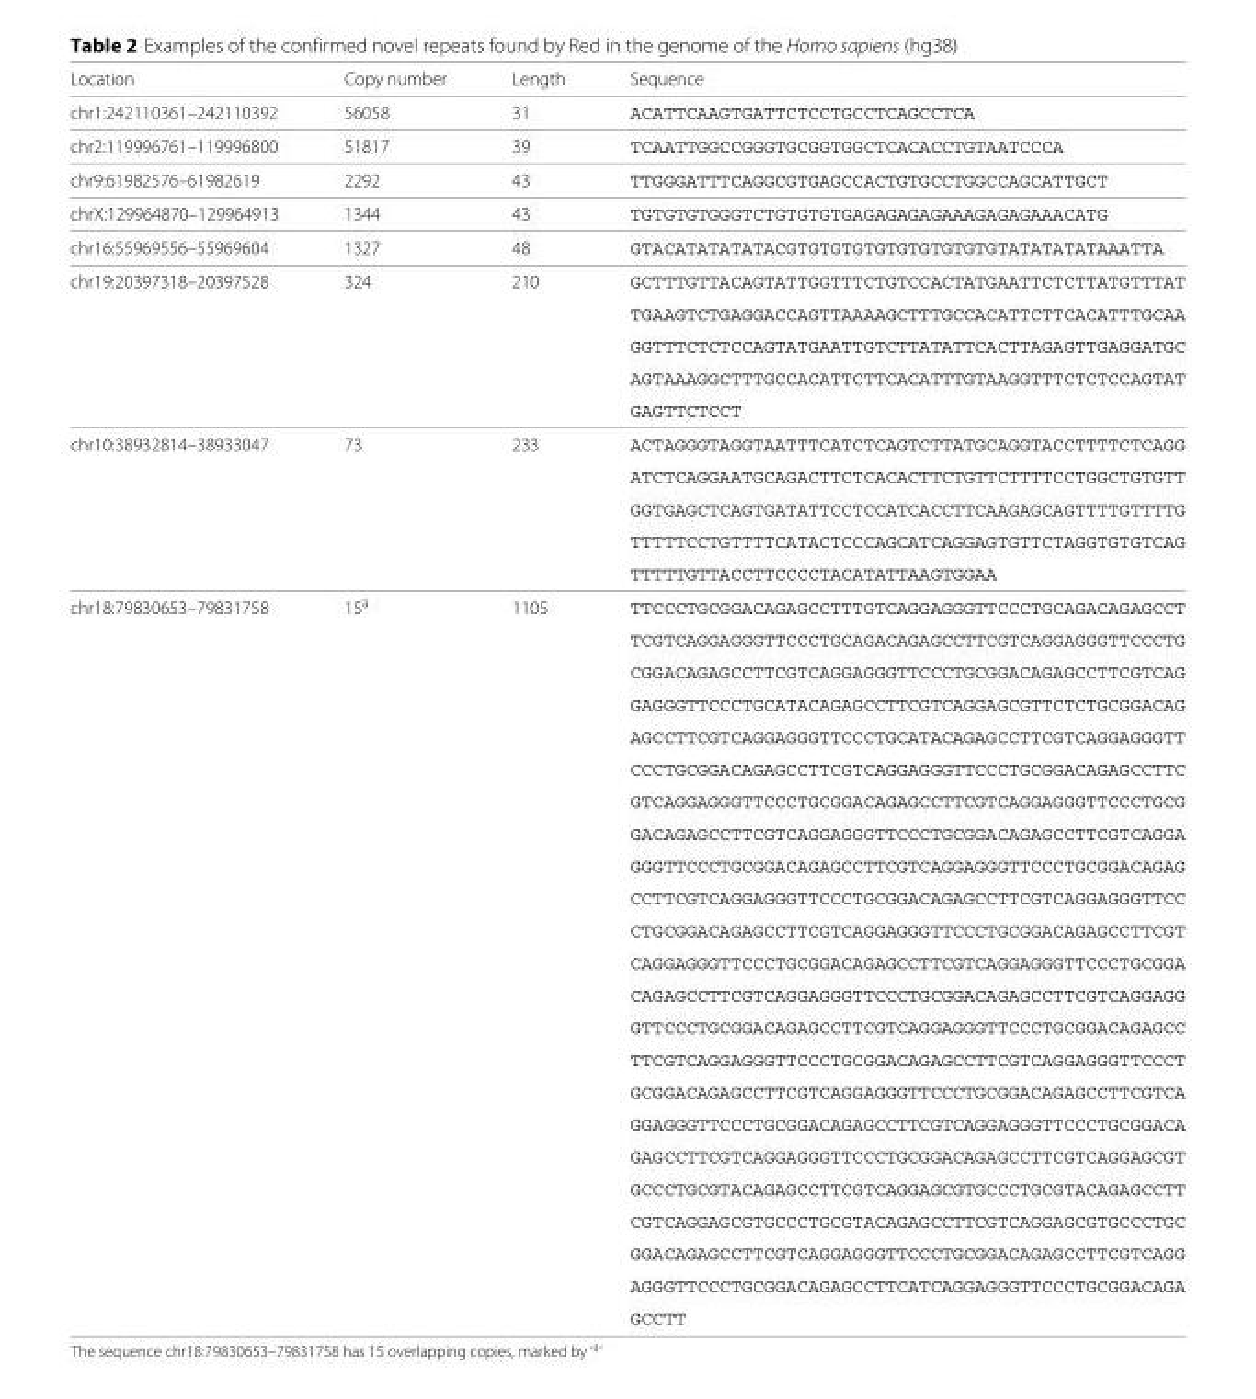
<table><thead><tr><td>Location</td><td>Copy number</td><td>Length</td><td>Sequence</td></tr></thead><tbody><tr><td>chr1:242110361–242110392</td><td>56058</td><td>31</td><td>ACATTCAAGTGATTCTCCTGCCTCAGCCTCA</td></tr><tr><td>chr2:119996761–119996800</td><td>51817</td><td>39</td><td>TCAATTGGCCGGGTGCGGTGGCTCACACCTGTAATCCCA</td></tr><tr><td>chr9:61982576–61982619</td><td>2292</td><td>43</td><td>TTGGGATTTCAGGCGTGAGCCACTGTGCCTGGCCAGCATTGCT</td></tr><tr><td>chrX:129964870–129964913</td><td>1344</td><td>43</td><td>TGTGTGTGGGTCTGTGTGTGAGAGAGAGAAAGAGAGAAACATG</td></tr><tr><td>chr16:55969556–55969604</td><td>1327</td><td>48</td><td>GTACATATATATACGTGTGTGTGTGTGTGTGTGTATATATATAAATTA</td></tr><tr><td rowspan="5">chr19:20397318–20397528</td><td>324</td><td>210</td><td>GCTTTGTTACAGTATTGGTTTCTGTCCACTATGAATTCTCTTATGTTTAT</td></tr><tr><td></td><td></td><td>TGAAGTCTGAGGACCAGTTAAAAGCTTTGCCACATTCTTCACATTTGCAA</td></tr><tr><td></td><td></td><td>GGTTTCTCTCCAGTATGAATTGTCTTATATTCACTTAGAGTTGAGGATGC</td></tr><tr><td></td><td></td><td>AGTAAAGGCTTTGCCACATTCTTCACATTTGTAAGGTTTCTCTCCAGTAT</td></tr><tr><td></td><td></td><td>GAGTTCTCCT</td></tr><tr><td rowspan="5">chr10:38932814–38933047</td><td>73</td><td>233</td><td>ACTAGGGTAGGTAATTTCATCTCAGTCTTATGCAGGTACCTTTTCTCAGG</td></tr><tr><td></td><td></td><td>ATCTCAGGAATGCAGACTTCTCACACTTCTGTTCTTTTCCTGGCTGTGTT</td></tr><tr><td></td><td></td><td>GGTGAGCTCAGTGATATTCCTCCATCACCTTCAAGAGCAGTTTTGTTTTG</td></tr><tr><td></td><td></td><td>TTTTTCCTGTTTTCATACTCCCAGCATCAGGAGTGTTCTAGGTGTGTCAG</td></tr><tr><td></td><td></td><td>TTTTTGTTACCTTCCCCTACATATTAAGTGGAA</td></tr><tr><td rowspan="23">chr18:79830653–79831758</td><td>15<sup>a</sup></td><td>1105</td><td>TTCCCTGCGGACAGAGCCTTTGTCAGGAGGGTTCCCTGCAGACAGAGCCT</td></tr><tr><td></td><td></td><td>TCGTCAGGAGGGTTCCCTGCAGACAGAGCCTTCGTCAGGAGGGTTCCCTG</td></tr><tr><td></td><td></td><td>CGGACAGAGCCTTCGTCAGGAGGGTTCCCTGCGGACAGAGCCTTCGTCAG</td></tr><tr><td></td><td></td><td>GAGGGTTCCCTGCATACAGAGCCTTCGTCAGGAGCGTTCTCTGCGGACAG</td></tr><tr><td></td><td></td><td>AGCCTTCGTCAGGAGGGTTCCCTGCATACAGAGCCTTCGTCAGGAGGGTT</td></tr><tr><td></td><td></td><td>CCCTGCGGACAGAGCCTTCGTCAGGAGGGTTCCCTGCGGACAGAGCCTTC</td></tr><tr><td></td><td></td><td>GTCAGGAGGGTTCCCTGCGGACAGAGCCTTCGTCAGGAGGGTTCCCTGCG</td></tr><tr><td></td><td></td><td>GACAGAGCCTTCGTCAGGAGGGTTCCCTGCGGACAGAGCCTTCGTCAGGA</td></tr><tr><td></td><td></td><td>GGGTTCCCTGCGGACAGAGCCTTCGTCAGGAGGGTTCCCTGCGGACAGAG</td></tr><tr><td></td><td></td><td>CCTTCGTCAGGAGGGTTCCCTGCGGACAGAGCCTTCGTCAGGAGGGTTCC</td></tr><tr><td></td><td></td><td>CTGCGGACAGAGCCTTCGTCAGGAGGGTTCCCTGCGGACAGAGCCTTCGT</td></tr><tr><td></td><td></td><td>CAGGAGGGTTCCCTGCGGACAGAGCCTTCGTCAGGAGGGTTCCCTGCGGA</td></tr><tr><td></td><td></td><td>CAGAGCCTTCGTCAGGAGGGTTCCCTGCGGACAGAGCCTTCGTCAGGAGG</td></tr><tr><td></td><td></td><td>GTTCCCTGCGGACAGAGCCTTCGTCAGGAGGGTTCCCTGCGGACAGAGCC</td></tr><tr><td></td><td></td><td>TTCGTCAGGAGGGTTCCCTGCGGACAGAGCCTTCGTCAGGAGGGTTCCCT</td></tr><tr><td></td><td></td><td>GCGGACAGAGCCTTCGTCAGGAGGGTTCCCTGCGGACAGAGCCTTCGTCA</td></tr><tr><td></td><td></td><td>GGAGGGTTCCCTGCGGACAGAGCCTTCGTCAGGAGGGTTCCCTGCGGACA</td></tr><tr><td></td><td></td><td>GAGCCTTCGTCAGGAGGGTTCCCTGCGGACAGAGCCTTCGTCAGGAGCGT</td></tr><tr><td></td><td></td><td>GCCCTGCGTACAGAGCCTTCGTCAGGAGCGTGCCCTGCGTACAGAGCCTT</td></tr><tr><td></td><td></td><td>CGTCAGGAGCGTGCCCTGCGTACAGAGCCTTCGTCAGGAGCGTGCCCTGC</td></tr><tr><td></td><td></td><td>GGACAGAGCCTTCGTCAGGAGGGTTCCCTGCGGACAGAGCCTTCGTCAGG</td></tr><tr><td></td><td></td><td>AGGGTTCCCTGCGGACAGAGCCTTCATCAGGAGGGTTCCCTGCGGACAGA</td></tr><tr><td></td><td></td><td>GCCTT</td></tr></tbody></table>